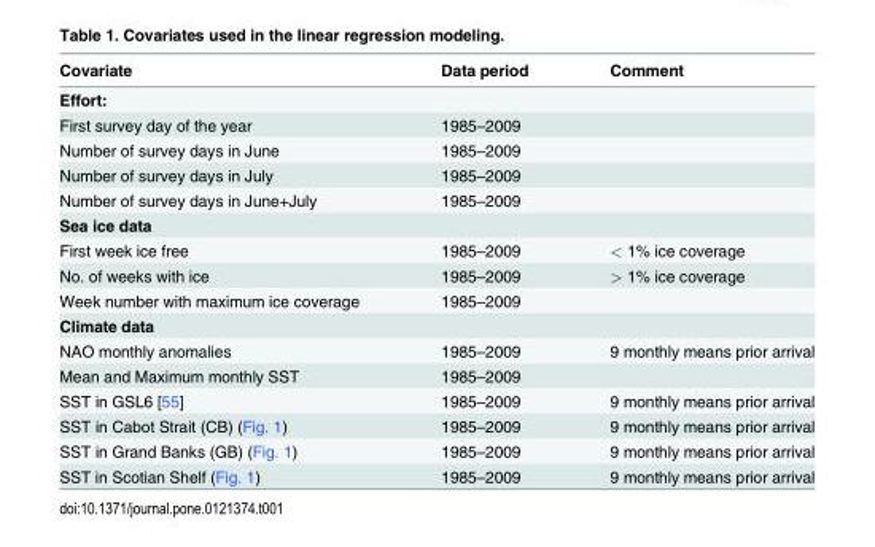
<table><thead><tr><td>Covariate</td><td>Data period</td><td>Comment</td></tr></thead><tbody><tr><td colspan="3">Effort:</td></tr><tr><td>First survey day of the year</td><td>1985–2009</td><td></td></tr><tr><td>Number of survey days in June</td><td>1985–2009</td><td></td></tr><tr><td>Number of survey days in July</td><td>1985–2009</td><td></td></tr><tr><td>Number of survey days in June+July</td><td>1985–2009</td><td></td></tr><tr><td colspan="3">Sea ice data</td></tr><tr><td>First week ice free</td><td>1985–2009</td><td>&lt; 1% ice coverage</td></tr><tr><td>No. of weeks with ice</td><td>1985–2009</td><td>&gt; 1% ice coverage</td></tr><tr><td>Week number with maximum ice coverage</td><td>1985–2009</td><td></td></tr><tr><td colspan="3">Climate data</td></tr><tr><td>NAO monthly anomalies</td><td>1985–2009</td><td>9 monthly means prior arrival</td></tr><tr><td>Mean and Maximum monthly SST</td><td>1985–2009</td><td></td></tr><tr><td>SST in GSL6 [55]</td><td>1985–2009</td><td>9 monthly means prior arrival</td></tr><tr><td>SST in Cabot Strait (CB) (Fig. 1)</td><td>1985–2009</td><td>9 monthly means prior arrival</td></tr><tr><td>SST in Grand Banks (GB) (Fig. 1)</td><td>1985–2009</td><td>9 monthly means prior arrival</td></tr><tr><td>SST in Scotian Shelf (Fig. 1)</td><td>1985–2009</td><td>9 monthly means prior arrival</td></tr></tbody></table>